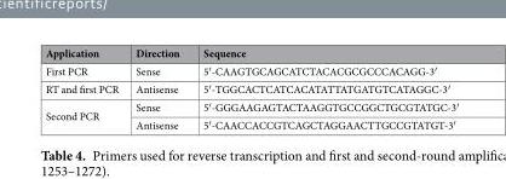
<table><thead><tr><td>Application</td><td>Direction</td><td>Sequence</td></tr></thead><tbody><tr><td>First PCR</td><td>Sense</td><td>5′-CAAGTGCAGCATCTACACGCGCCCACAGG-3′</td></tr><tr><td>RT and first PCR</td><td>Antisense</td><td>5′-TGGCACTCATCACATATTATGATGTCATAGGC-3′</td></tr><tr><td rowspan="2">Second PCR</td><td>Sense</td><td>5′-GGGAAGAGTACTAAGGTGCCGGCTGCGTATGC-3′</td></tr><tr><td>Antisense</td><td>5′-CAACCACCGTCAGCTAGGAACTTGCCGTATGT-3′</td></tr></tbody></table>